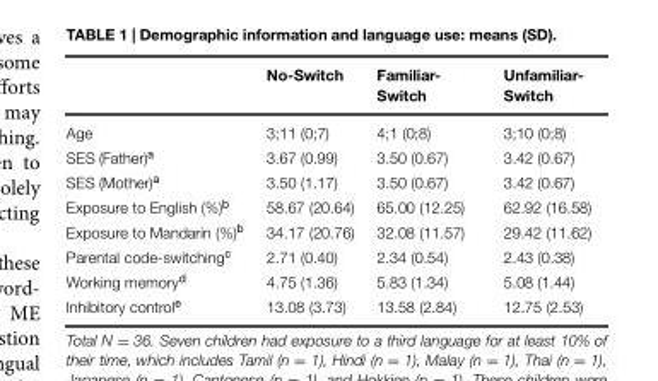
<table><thead><tr><td></td><td>No-Switch</td><td>Familiar- Switch</td><td>Unfamiliar- Switch</td></tr></thead><tbody><tr><td>Age</td><td>3;11 (0;7)</td><td>4;1 (0;8)</td><td>3;10 (0;8)</td></tr><tr><td>SES (Father)<sup>a</sup></td><td>3.67 (0.99)</td><td>3.50 (0.67)</td><td>3.42 (0.67)</td></tr><tr><td>SES (Mother)<sup>a</sup></td><td>3.50 (1.17)</td><td>3.50 (0.67)</td><td>3.42 (0.67)</td></tr><tr><td>Exposure to English (%)<sup>b</sup></td><td>58.67 (20.64)</td><td>65.00 (12.25)</td><td>62.92 (16.58)</td></tr><tr><td>Exposure to Mandarin (%)<sup>b</sup></td><td>34.17 (20.76)</td><td>32.08 (11.57)</td><td>29.42 (11.62)</td></tr><tr><td>Parental code-switching<sup>c</sup></td><td>2.71 (0.40)</td><td>2.34 (0.54)</td><td>2.43 (0.38)</td></tr><tr><td>Working memory<sup>d</sup></td><td>4.75 (1.36)</td><td>5.83 (1.34)</td><td>5.08 (1.44)</td></tr><tr><td>Inhibitory control<sup>e</sup></td><td>13.08 (3.73)</td><td>13.58 (2.84)</td><td>12.75 (2.53)</td></tr></tbody></table>